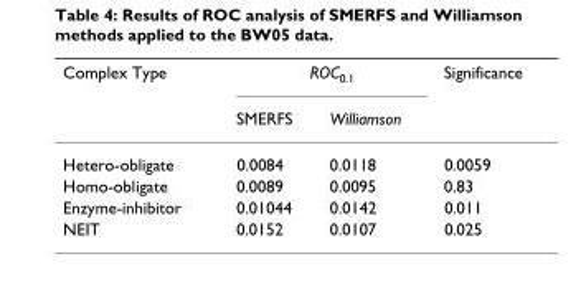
<table><thead><tr><td rowspan="2">Complex Type</td><td colspan="2">ROC<sub>0.1</sub></td><td rowspan="2">Significance</td></tr><tr><td>SMERFS</td><td>Williamson</td></tr></thead><tbody><tr><td>Hetero-obligate</td><td>0.0084</td><td>0.0118</td><td>0.0059</td></tr><tr><td>Homo-obligate</td><td>0.0089</td><td>0.0095</td><td>0.83</td></tr><tr><td>Enzyme-inhibitor</td><td>0.01044</td><td>0.0142</td><td>0.011</td></tr><tr><td>NEIT</td><td>0.0152</td><td>0.0107</td><td>0.025</td></tr></tbody></table>